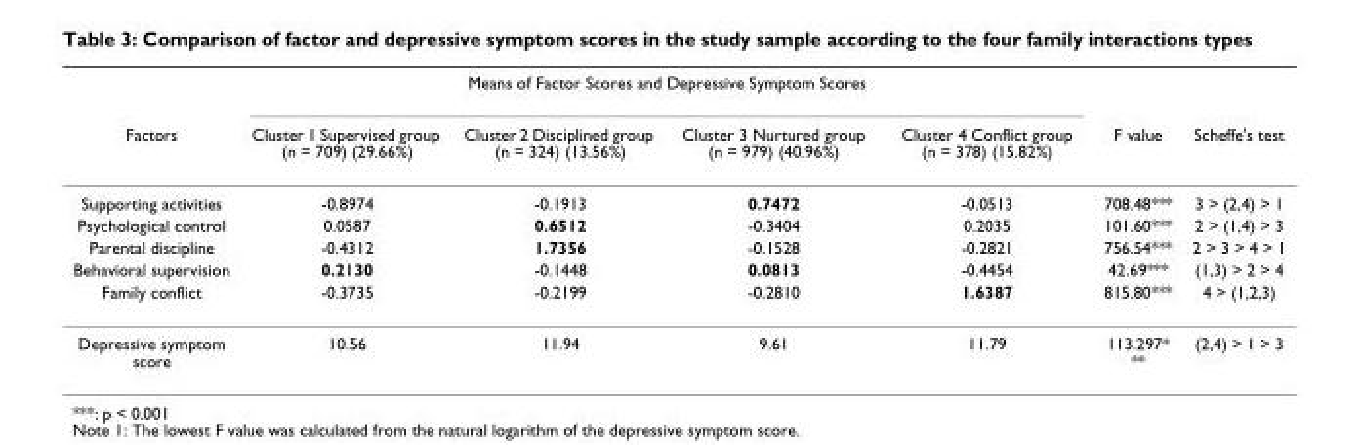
<table><thead><tr><td rowspan="2">Factors</td><td colspan="4">Means of Factor Scores and Depressive Symptom Scores</td><td rowspan="2">F value</td><td rowspan="2">Scheffe&#x27;s test</td></tr><tr><td>Cluster 1 Supervised group (n = 709) (29.66%)</td><td>Cluster 2 Disciplined group (n = 324) (13.56%)</td><td>Cluster 3 Nurtured group (n = 979) (40.96%)</td><td>Cluster 4 Conflict group (n = 378) (15.82%)</td></tr></thead><tbody><tr><td>Supporting activities</td><td>-0.8974</td><td>-0.1913</td><td>0.7472</td><td>-0.0513</td><td>708.48***</td><td>3 &gt; (2,4) &gt; 1</td></tr><tr><td>Psychological control</td><td>0.0587</td><td>0.6512</td><td>-0.3404</td><td>0.2035</td><td>101.60***</td><td>2 &gt; (1,4) &gt; 3</td></tr><tr><td>Parental discipline</td><td>-0.4312</td><td>1.7356</td><td>-0.1528</td><td>-0.2821</td><td>756.54***</td><td>2 &gt; 3 &gt; 4 &gt; 1</td></tr><tr><td>Behavioral supervision</td><td>0.2130</td><td>-0.1448</td><td>0.0813</td><td>-0.4454</td><td>42.69***</td><td>(1,3) &gt; 2 &gt; 4</td></tr><tr><td>Family conflict</td><td>-0.3735</td><td>-0.2199</td><td>-0.2810</td><td>1.6387</td><td>815.80***</td><td>4 &gt; (1,2,3)</td></tr><tr><td>Depressive symptom score</td><td>10.56</td><td>11.94</td><td>9.61</td><td>11.79</td><td>113.297* **</td><td>(2,4) &gt; 1 &gt; 3</td></tr></tbody></table>